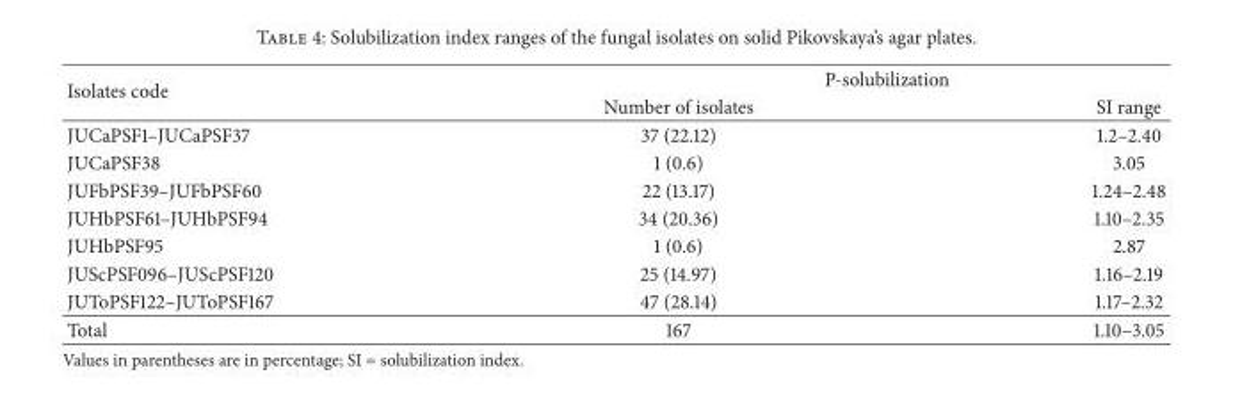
<table><thead><tr><td rowspan="2">Isolates code</td><td colspan="2">P-solubilization</td></tr><tr><td>Number of isolates</td><td>SI range</td></tr></thead><tbody><tr><td>JUCaPSF1–JUCaPSF37</td><td>37 (22.12)</td><td>1.2–2.40</td></tr><tr><td>JUCaPSF38</td><td>1 (0.6)</td><td>3.05</td></tr><tr><td>JUFbPSF39–JUFbPSF60</td><td>22 (13.17)</td><td>1.24–2.48</td></tr><tr><td>JUHbPSF61–JUHbPSF94</td><td>34 (20.36)</td><td>1.10–2.35</td></tr><tr><td>JUHbPSF95</td><td>1 (0.6)</td><td>2.87</td></tr><tr><td>JUScPSF096–JUScPSF120</td><td>25 (14.97)</td><td>1.16–2.19</td></tr><tr><td>JUToPSF122–JUToPSF167</td><td>47 (28.14)</td><td>1.17–2.32</td></tr><tr><td>Total</td><td>167</td><td>1.10–3.05</td></tr></tbody></table>